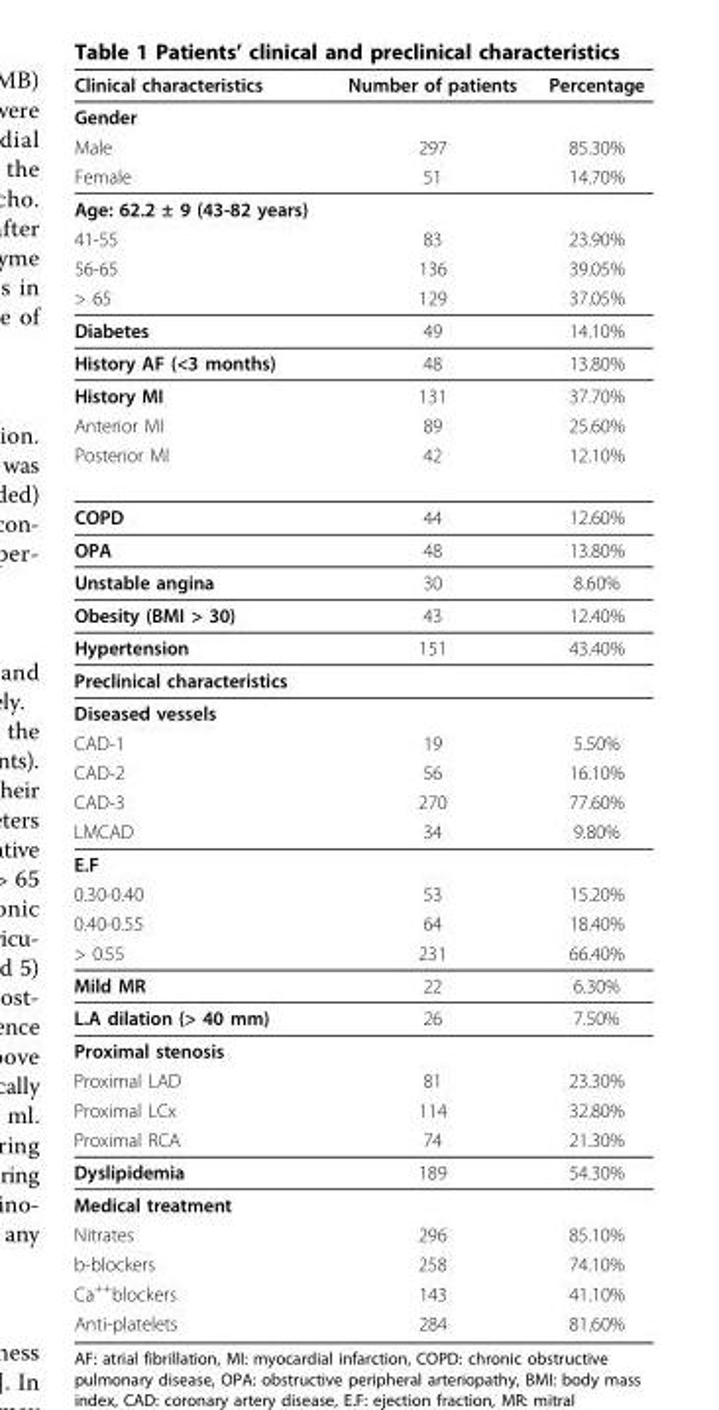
<table><thead><tr><td>Clinical characteristics</td><td>Number of patients</td><td>Percentage</td></tr></thead><tbody><tr><td colspan="3">Gender</td></tr><tr><td>Male</td><td>297</td><td>85.30%</td></tr><tr><td>Female</td><td>51</td><td>14.70%</td></tr><tr><td colspan="3">Age: 62.2 ± 9 (43-82 years)</td></tr><tr><td>41-55</td><td>83</td><td>23.90%</td></tr><tr><td>56-65</td><td>136</td><td>39.05%</td></tr><tr><td>&gt; 65</td><td>129</td><td>37.05%</td></tr><tr><td>Diabetes</td><td>49</td><td>14.10%</td></tr><tr><td>History AF (&lt;3 months)</td><td>48</td><td>13.80%</td></tr><tr><td>History MI</td><td>131</td><td>37.70%</td></tr><tr><td>Anterior MI</td><td>89</td><td>25.60%</td></tr><tr><td>Posterior MI</td><td>42</td><td>12.10%</td></tr><tr><td>COPD</td><td>44</td><td>12.60%</td></tr><tr><td>OPA</td><td>48</td><td>13.80%</td></tr><tr><td>Unstable angina</td><td>30</td><td>8.60%</td></tr><tr><td>Obesity (BMI &gt; 30)</td><td>43</td><td>12.40%</td></tr><tr><td>Hypertension</td><td>151</td><td>43.40%</td></tr><tr><td colspan="3">Preclinical characteristics</td></tr><tr><td colspan="3">Diseased vessels</td></tr><tr><td>CAD-1</td><td>19</td><td>5.50%</td></tr><tr><td>CAD-2</td><td>56</td><td>16.10%</td></tr><tr><td>CAD-3</td><td>270</td><td>77.60%</td></tr><tr><td>LMCAD</td><td>34</td><td>9.80%</td></tr><tr><td colspan="3">E.F</td></tr><tr><td>0.30-0.40</td><td>53</td><td>15.20%</td></tr><tr><td>0.40-0.55</td><td>64</td><td>18.40%</td></tr><tr><td>&gt; 0.55</td><td>231</td><td>66.40%</td></tr><tr><td>Mild MR</td><td>22</td><td>6.30%</td></tr><tr><td>L.A dilation (&gt; 40 mm)</td><td>26</td><td>7.50%</td></tr><tr><td colspan="3">Proximal stenosis</td></tr><tr><td>Proximal LAD</td><td>81</td><td>23.30%</td></tr><tr><td>Proximal LCx</td><td>114</td><td>32.80%</td></tr><tr><td>Proximal RCA</td><td>74</td><td>21.30%</td></tr><tr><td>Dyslipidemia</td><td>189</td><td>54.30%</td></tr><tr><td colspan="3">Medical treatment</td></tr><tr><td>Nitrates</td><td>296</td><td>85.10%</td></tr><tr><td>b-blockers</td><td>258</td><td>74.10%</td></tr><tr><td>Ca<sup>++</sup>blockers</td><td>143</td><td>41.10%</td></tr><tr><td>Anti-platelets</td><td>284</td><td>81.60%</td></tr></tbody></table>